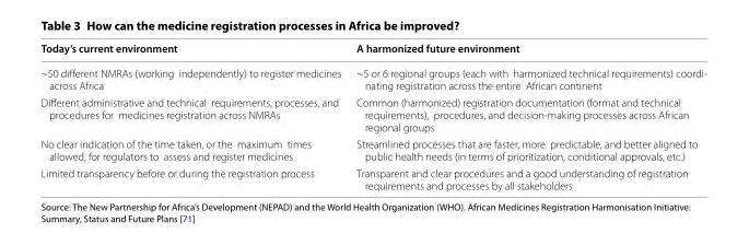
<table><thead><tr><td>Today’s current environment</td><td>A harmonized future environment</td></tr></thead><tbody><tr><td>~50 different NMRAs (working independently) to register medicines across Africa</td><td>~5 or 6 regional groups (each with harmonized technical requirements) coordi- nating registration across the entire African continent</td></tr><tr><td>Different administrative and technical requirements, processes, and procedures for medicines registration across NMRAs</td><td>Common (harmonized) registration documentation (format and technical requirements), procedures, and decision-making processes across African regional groups</td></tr><tr><td>No clear indication of the time taken, or the maximum times allowed, for regulators to assess and register medicines</td><td>Streamlined processes that are faster, more predictable, and better aligned to public health needs (in terms of prioritization, conditional approvals, etc.)</td></tr><tr><td>Limited transparency before or during the registration process</td><td>Transparent and clear procedures and a good understanding of registration requirements and processes by all stakeholders</td></tr></tbody></table>